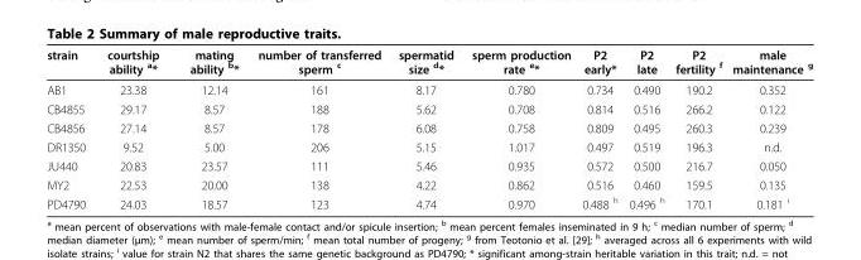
<table><thead><tr><td>strain</td><td>courtship ability <sup>a</sup>*</td><td>mating ability <sup>b</sup>*</td><td>number of transferred sperm <sup>c</sup></td><td>spermatid size <sup>d</sup>*</td><td>sperm production rate <sup>e</sup>*</td><td>P2 early*</td><td>P2 late</td><td>P2 fertility <sup>f</sup></td><td>male maintenance <sup>g</sup></td></tr></thead><tbody><tr><td>AB1</td><td>23.38</td><td>12.14</td><td>161</td><td>8.17</td><td>0.780</td><td>0.734</td><td>0.490</td><td>190.2</td><td>0.352</td></tr><tr><td>CB4855</td><td>29.17</td><td>8.57</td><td>188</td><td>5.62</td><td>0.708</td><td>0.814</td><td>0.516</td><td>266.2</td><td>0.122</td></tr><tr><td>CB4856</td><td>27.14</td><td>8.57</td><td>178</td><td>6.08</td><td>0.758</td><td>0.809</td><td>0.495</td><td>260.3</td><td>0.239</td></tr><tr><td>DR1350</td><td>9.52</td><td>5.00</td><td>206</td><td>5.15</td><td>1.017</td><td>0.497</td><td>0.519</td><td>196.3</td><td>n.d.</td></tr><tr><td>JU440</td><td>20.83</td><td>23.57</td><td>111</td><td>5.46</td><td>0.935</td><td>0.572</td><td>0.500</td><td>216.7</td><td>0.050</td></tr><tr><td>MY2</td><td>22.53</td><td>20.00</td><td>138</td><td>4.22</td><td>0.862</td><td>0.516</td><td>0.460</td><td>159.5</td><td>0.135</td></tr><tr><td>PD4790</td><td>24.03</td><td>18.57</td><td>123</td><td>4.74</td><td>0.970</td><td>0.488 <sup>h</sup></td><td>0.496 <sup>h</sup></td><td>170.1</td><td>0.181 <sup>i</sup></td></tr></tbody></table>